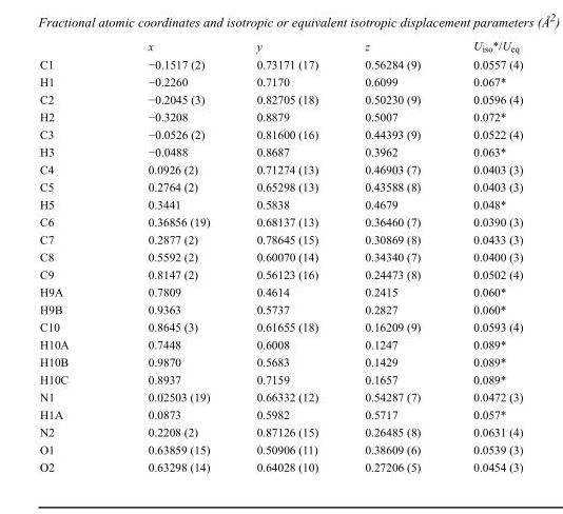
<table><thead><tr><td></td><td>x</td><td>y</td><td>z</td><td>U<sub>iso</sub>*/U<sub>eq</sub></td></tr></thead><tbody><tr><td>C1</td><td>−0.1517 (2)</td><td>0.73171 (17)</td><td>0.56284 (9)</td><td>0.0557 (4)</td></tr><tr><td>H1</td><td>−0.2260</td><td>0.7170</td><td>0.6099</td><td>0.067*</td></tr><tr><td>C2</td><td>−0.2045 (3)</td><td>0.82705 (18)</td><td>0.50230 (9)</td><td>0.0596 (4)</td></tr><tr><td>H2</td><td>−0.3208</td><td>0.8879</td><td>0.5007</td><td>0.072*</td></tr><tr><td>C3</td><td>−0.0526 (2)</td><td>0.81600 (16)</td><td>0.44393 (9)</td><td>0.0522 (4)</td></tr><tr><td>H3</td><td>−0.0488</td><td>0.8687</td><td>0.3962</td><td>0.063*</td></tr><tr><td>C4</td><td>0.0926 (2)</td><td>0.71274 (13)</td><td>0.46903 (7)</td><td>0.0403 (3)</td></tr><tr><td>C5</td><td>0.2764 (2)</td><td>0.65298 (13)</td><td>0.43588 (8)</td><td>0.0403 (3)</td></tr><tr><td>H5</td><td>0.3441</td><td>0.5838</td><td>0.4679</td><td>0.048*</td></tr><tr><td>C6</td><td>0.36856 (19)</td><td>0.68137 (13)</td><td>0.36460 (7)</td><td>0.0390 (3)</td></tr><tr><td>C7</td><td>0.2877 (2)</td><td>0.78645 (15)</td><td>0.30869 (8)</td><td>0.0433 (3)</td></tr><tr><td>C8</td><td>0.5592 (2)</td><td>0.60070 (14)</td><td>0.34340 (7)</td><td>0.0400 (3)</td></tr><tr><td>C9</td><td>0.8147 (2)</td><td>0.56123 (16)</td><td>0.24473 (8)</td><td>0.0502 (4)</td></tr><tr><td>H9A</td><td>0.7809</td><td>0.4614</td><td>0.2415</td><td>0.060*</td></tr><tr><td>H9B</td><td>0.9363</td><td>0.5737</td><td>0.2827</td><td>0.060*</td></tr><tr><td>C10</td><td>0.8645 (3)</td><td>0.61655 (18)</td><td>0.16209 (9)</td><td>0.0593 (4)</td></tr><tr><td>H10A</td><td>0.7448</td><td>0.6008</td><td>0.1247</td><td>0.089*</td></tr><tr><td>H10B</td><td>0.9870</td><td>0.5683</td><td>0.1429</td><td>0.089*</td></tr><tr><td>H10C</td><td>0.8937</td><td>0.7159</td><td>0.1657</td><td>0.089*</td></tr><tr><td>N1</td><td>0.02503 (19)</td><td>0.66332 (12)</td><td>0.54287 (7)</td><td>0.0472 (3)</td></tr><tr><td>H1A</td><td>0.0873</td><td>0.5982</td><td>0.5717</td><td>0.057*</td></tr><tr><td>N2</td><td>0.2208 (2)</td><td>0.87126 (15)</td><td>0.26485 (8)</td><td>0.0631 (4)</td></tr><tr><td>O1</td><td>0.63859 (15)</td><td>0.50906 (11)</td><td>0.38609 (6)</td><td>0.0539 (3)</td></tr><tr><td>O2</td><td>0.63298 (14)</td><td>0.64028 (10)</td><td>0.27206 (5)</td><td>0.0454 (3)</td></tr></tbody></table>